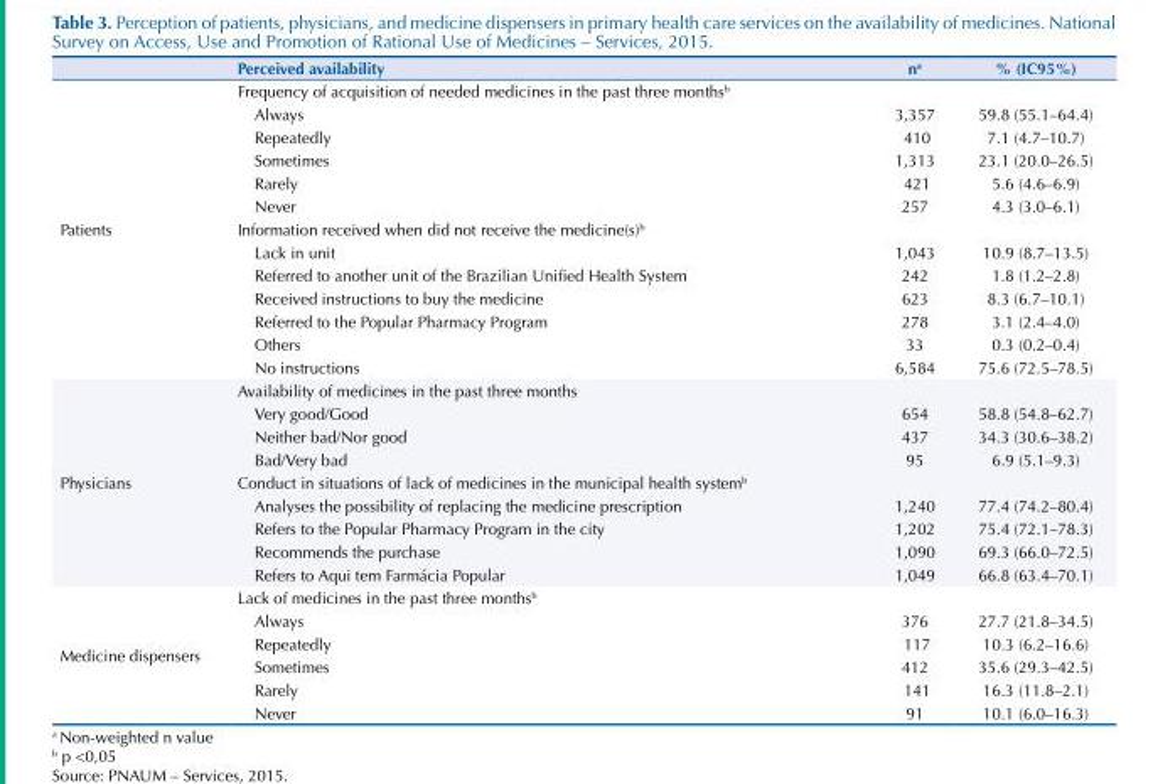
<table><thead><tr><td></td><td>Perceived availability</td><td>n<sup>a</sup></td><td>% (IC95%)</td></tr></thead><tbody><tr><td rowspan="13">Patients</td><td colspan="3">Frequency of acquisition of needed medicines in the past three months<sup>b</sup></td></tr><tr><td>Always</td><td>3,357</td><td>59.8 (55.1–64.4)</td></tr><tr><td>Repeatedly</td><td>410</td><td>7.1 (4.7–10.7)</td></tr><tr><td>Sometimes</td><td>1,313</td><td>23.1 (20.0–26.5)</td></tr><tr><td>Rarely</td><td>421</td><td>5.6 (4.6–6.9)</td></tr><tr><td>Never</td><td>257</td><td>4.3 (3.0–6.1)</td></tr><tr><td colspan="3">Information received when did not receive the medicine(s)<sup>b</sup></td></tr><tr><td>Lack in unit</td><td>1,043</td><td>10.9 (8.7–13.5)</td></tr><tr><td>Referred to another unit of the Brazilian Unified Health System</td><td>242</td><td>1.8 (1.2–2.8)</td></tr><tr><td>Received instructions to buy the medicine</td><td>623</td><td>8.3 (6.7–10.1)</td></tr><tr><td>Referred to the Popular Pharmacy Program</td><td>278</td><td>3.1 (2.4–4.0)</td></tr><tr><td>Others</td><td>33</td><td>0.3 (0.2–0.4)</td></tr><tr><td>No instructions</td><td>6,584</td><td>75.6 (72.5–78.5)</td></tr><tr><td rowspan="9">Physicians</td><td colspan="3">Availability of medicines in the past three months</td></tr><tr><td>Very good/Good</td><td>654</td><td>58.8 (54.8–62.7)</td></tr><tr><td>Neither bad/Nor good</td><td>437</td><td>34.3 (30.6–38.2)</td></tr><tr><td>Bad/Very bad</td><td>95</td><td>6.9 (5.1–9.3)</td></tr><tr><td colspan="3">Conduct in situations of lack of medicines in the municipal health system<sup>b</sup></td></tr><tr><td>Analyses the possibility of replacing the medicine prescription</td><td>1,240</td><td>77.4 (74.2–80.4)</td></tr><tr><td>Refers to the Popular Pharmacy Program in the city</td><td>1,202</td><td>75.4 (72.1–78.3)</td></tr><tr><td>Recommends the purchase</td><td>1,090</td><td>69.3 (66.0–72.5)</td></tr><tr><td>Refers to Aqui tem Farmácia Popular</td><td>1,049</td><td>66.8 (63.4–70.1)</td></tr><tr><td rowspan="6">Medicine dispensers</td><td colspan="3">Lack of medicines in the past three months<sup>b</sup></td></tr><tr><td>Always</td><td>376</td><td>27.7 (21.8–34.5)</td></tr><tr><td>Repeatedly</td><td>117</td><td>10.3 (6.2–16.6)</td></tr><tr><td>Sometimes</td><td>412</td><td>35.6 (29.3–42.5)</td></tr><tr><td>Rarely</td><td>141</td><td>16.3 (11.8–2.1)</td></tr><tr><td>Never</td><td>91</td><td>10.1 (6.0–16.3)</td></tr></tbody></table>